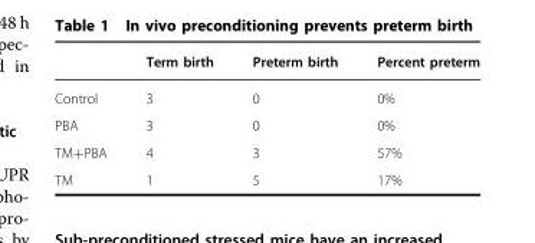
<table><thead><tr><td></td><td>Term birth</td><td>Preterm birth</td><td>Percent preterm</td></tr></thead><tbody><tr><td>Control</td><td>3</td><td>0</td><td>0%</td></tr><tr><td>PBA</td><td>3</td><td>0</td><td>0%</td></tr><tr><td>TM+PBA</td><td>4</td><td>3</td><td>57%</td></tr><tr><td>TM</td><td>1</td><td>5</td><td>17%</td></tr></tbody></table>